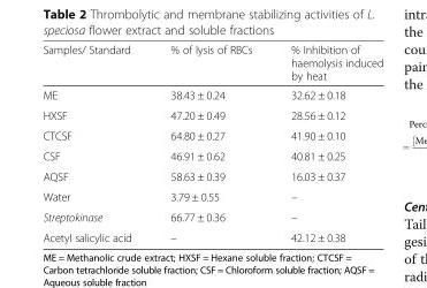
<table><thead><tr><td>Samples/ Standard</td><td>% of lysis of RBCs</td><td>% Inhibition of haemolysis induced by heat</td></tr></thead><tbody><tr><td>ME</td><td>38.43 ± 0.24</td><td>32.62 ± 0.18</td></tr><tr><td>HXSF</td><td>47.20 ± 0.49</td><td>28.56 ± 0.12</td></tr><tr><td>CTCSF</td><td>64.80 ± 0.27</td><td>41.90 ± 0.10</td></tr><tr><td>CSF</td><td>46.91 ± 0.62</td><td>40.81 ± 0.25</td></tr><tr><td>AQSF</td><td>58.63 ± 0.39</td><td>16.03 ± 0.37</td></tr><tr><td>Water</td><td>3.79 ± 0.55</td><td>–</td></tr><tr><td>Streptokinase</td><td>66.77 ± 0.36</td><td>–</td></tr><tr><td>Acetyl salicylic acid</td><td>–</td><td>42.12 ± 0.38</td></tr></tbody></table>